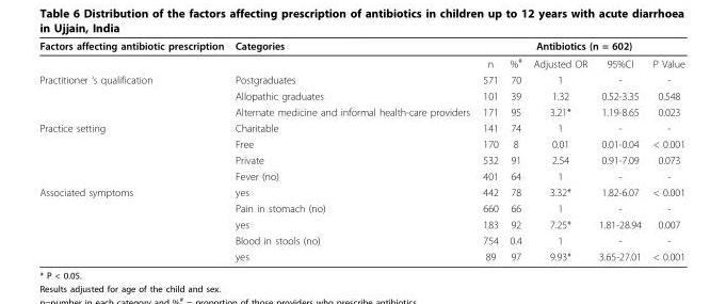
<table><thead><tr><td rowspan="2">Factors affecting antibiotic prescription</td><td rowspan="2">Categories</td><td colspan="5">Antibiotics (n = 602)</td></tr><tr><td>n</td><td>%<sup>#</sup></td><td>Adjusted OR</td><td>95%CI</td><td>P Value</td></tr></thead><tbody><tr><td rowspan="3">Practitioner ‘s qualification</td><td>Postgraduates</td><td>571</td><td>70</td><td>1</td><td>-</td><td>-</td></tr><tr><td>Allopathic graduates</td><td>101</td><td>39</td><td>1.32</td><td>0.52-3.35</td><td>0.548</td></tr><tr><td>Alternate medicine and informal health-care providers</td><td>171</td><td>95</td><td>3.21*</td><td>1.19-8.65</td><td>0.023</td></tr><tr><td rowspan="4">Practice setting</td><td>Charitable</td><td>141</td><td>74</td><td>1</td><td>-</td><td>-</td></tr><tr><td>Free</td><td>170</td><td>8</td><td>0.01</td><td>0.01-0.04</td><td>&lt; 0.001</td></tr><tr><td>Private</td><td>532</td><td>91</td><td>2.54</td><td>0.91-7.09</td><td>0.073</td></tr><tr><td>Fever (no)</td><td>401</td><td>64</td><td>1</td><td>-</td><td>-</td></tr><tr><td rowspan="5">Associated symptoms</td><td>yes</td><td>442</td><td>78</td><td>3.32*</td><td>1.82-6.07</td><td>&lt; 0.001</td></tr><tr><td>Pain in stomach (no)</td><td>660</td><td>66</td><td>1</td><td>-</td><td>-</td></tr><tr><td>yes</td><td>183</td><td>92</td><td>7.25*</td><td>1.81-28.94</td><td>0.007</td></tr><tr><td>Blood in stools (no)</td><td>754</td><td>0.4</td><td>1</td><td>-</td><td>-</td></tr><tr><td>yes</td><td>89</td><td>97</td><td>9.93*</td><td>3.65-27.01</td><td>&lt; 0.001</td></tr></tbody></table>